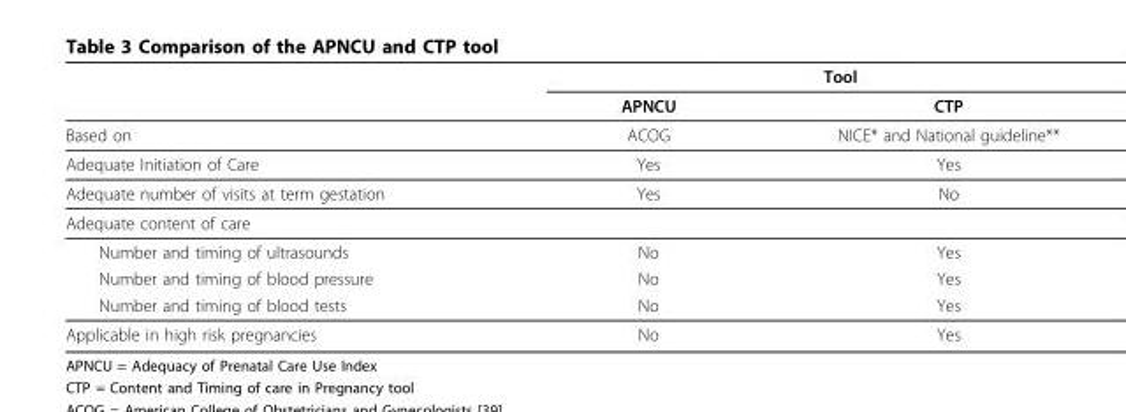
<table><thead><tr><td rowspan="2"></td><td colspan="2">Tool</td></tr><tr><td>APNCU</td><td>CTP</td></tr></thead><tbody><tr><td>Based on</td><td>ACOG</td><td>NICE* and National guideline**</td></tr><tr><td>Adequate Initiation of Care</td><td>Yes</td><td>Yes</td></tr><tr><td>Adequate number of visits at term gestation</td><td>Yes</td><td>No</td></tr><tr><td colspan="3">Adequate content of care</td></tr><tr><td>Number and timing of ultrasounds</td><td>No</td><td>Yes</td></tr><tr><td>Number and timing of blood pressure</td><td>No</td><td>Yes</td></tr><tr><td>Number and timing of blood tests</td><td>No</td><td>Yes</td></tr><tr><td>Applicable in high risk pregnancies</td><td>No</td><td>Yes</td></tr></tbody></table>